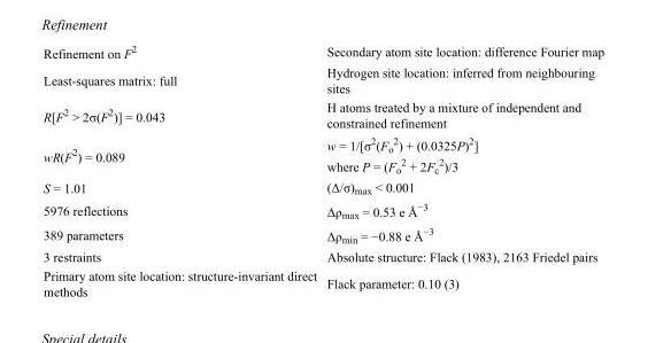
<table><tbody><tr><td>Refinement on F<sup>2</sup></td><td>Secondary atom site location: difference Fourier map</td></tr><tr><td>Least-squares matrix: full</td><td>Hydrogen site location: inferred from neighbouring sites</td></tr><tr><td>R[F<sup>2</sup> &gt; 2σ(F<sup>2</sup>)] = 0.043</td><td>H atoms treated by a mixture of independent and constrained refinement</td></tr><tr><td>wR(F<sup>2</sup>) = 0.089</td><td>w = 1/[σ<sup>2</sup>(F<sub>o</sub> <sup>2</sup>) + (0.0325P)<sup>2</sup>] where P = (F<sub>o</sub> <sup>2</sup> + 2F<sub>c</sub> <sup>2</sup>)/3</td></tr><tr><td>S = 1.01</td><td>(Δ/σ)<sub>max</sub> &lt; 0.001</td></tr><tr><td>5976 reflections</td><td>Δρ<sub>max</sub> = 0.53 e Å<sup>−3</sup></td></tr><tr><td>389 parameters</td><td>Δρ<sub>min</sub> = −0.88 e Å<sup>−3</sup></td></tr><tr><td>3 restraints</td><td>Absolute structure: Flack (1983), 2163 Friedel pairs</td></tr><tr><td>Primary atom site location: structure-invariant direct methods</td><td>Flack parameter: 0.10 (3)</td></tr></tbody></table>